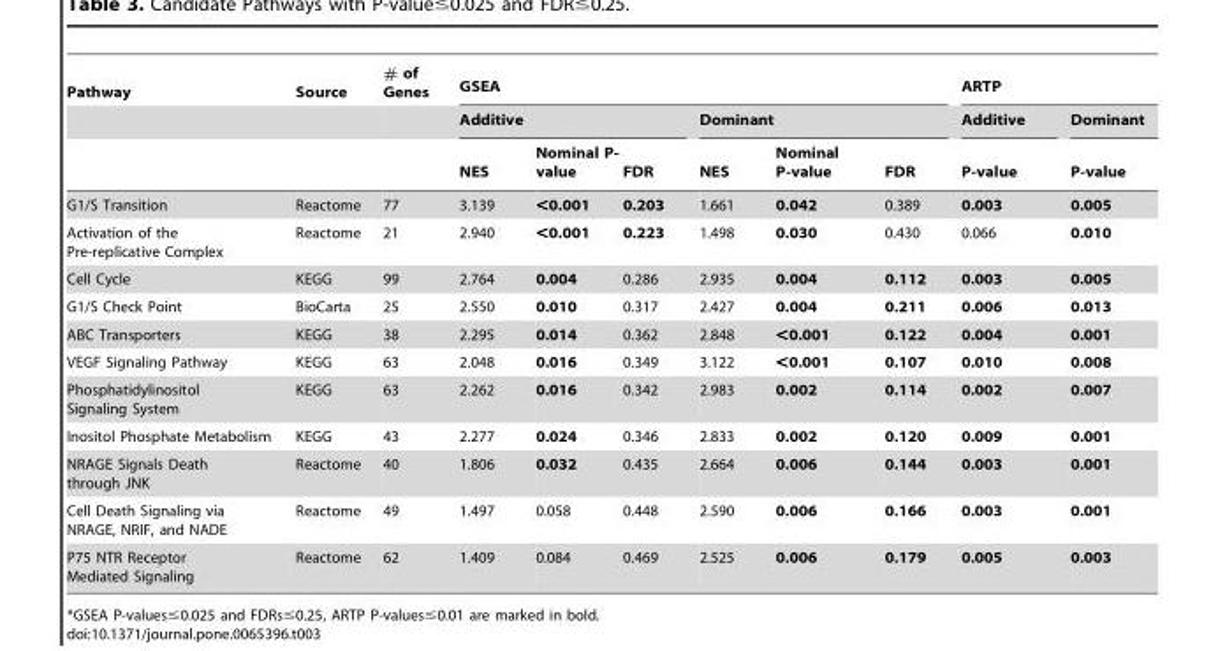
<table><thead><tr><td rowspan="3">Pathway</td><td rowspan="3">Source</td><td rowspan="3"># of Genes</td><td colspan="6">GSEA</td><td colspan="2">ARTP</td></tr><tr><td colspan="3">Additive</td><td colspan="3">Dominant</td><td rowspan="2">Additive P-value</td><td rowspan="2">Dominant P-value</td></tr><tr><td>NES</td><td>Nominal P- value</td><td>FDR</td><td>NES</td><td>Nominal P-value</td><td>FDR</td></tr></thead><tbody><tr><td>G1/S Transition</td><td>Reactome</td><td>77</td><td>3.139</td><td>&lt;0.001</td><td>0.203</td><td>1.661</td><td>0.042</td><td>0.389</td><td>0.003</td><td>0.005</td></tr><tr><td>Activation of the Pre-replicative Complex</td><td>Reactome</td><td>21</td><td>2.940</td><td>&lt;0.001</td><td>0.223</td><td>1.498</td><td>0.030</td><td>0.430</td><td>0.066</td><td>0.010</td></tr><tr><td>Cell Cycle</td><td>KEGG</td><td>99</td><td>2.764</td><td>0.004</td><td>0.286</td><td>2.935</td><td>0.004</td><td>0.112</td><td>0.003</td><td>0.005</td></tr><tr><td>G1/S Check Point</td><td>BioCarta</td><td>25</td><td>2.550</td><td>0.010</td><td>0.317</td><td>2.427</td><td>0.004</td><td>0.211</td><td>0.006</td><td>0.013</td></tr><tr><td>ABC Transporters</td><td>KEGG</td><td>38</td><td>2.295</td><td>0.014</td><td>0.362</td><td>2.848</td><td>&lt;0.001</td><td>0.122</td><td>0.004</td><td>0.001</td></tr><tr><td>VEGF Signaling Pathway</td><td>KEGG</td><td>63</td><td>2.048</td><td>0.016</td><td>0.349</td><td>3.122</td><td>&lt;0.001</td><td>0.107</td><td>0.010</td><td>0.008</td></tr><tr><td>Phosphatidylinositol Signaling System</td><td>KEGG</td><td>63</td><td>2.262</td><td>0.016</td><td>0.342</td><td>2.983</td><td>0.002</td><td>0.114</td><td>0.002</td><td>0.007</td></tr><tr><td>Inositol Phosphate Metabolism</td><td>KEGG</td><td>43</td><td>2.277</td><td>0.024</td><td>0.346</td><td>2.833</td><td>0.002</td><td>0.120</td><td>0.009</td><td>0.001</td></tr><tr><td>NRAGE Signals Death through JNK</td><td>Reactome</td><td>40</td><td>1.806</td><td>0.032</td><td>0.435</td><td>2.664</td><td>0.006</td><td>0.144</td><td>0.003</td><td>0.001</td></tr><tr><td>Cell Death Signaling via NRAGE, NRIF, and NADE</td><td>Reactome</td><td>49</td><td>1.497</td><td>0.058</td><td>0.448</td><td>2.590</td><td>0.006</td><td>0.166</td><td>0.003</td><td>0.001</td></tr><tr><td>P75 NTR Receptor Mediated Signaling</td><td>Reactome</td><td>62</td><td>1.409</td><td>0.084</td><td>0.469</td><td>2.525</td><td>0.006</td><td>0.179</td><td>0.005</td><td>0.003</td></tr></tbody></table>